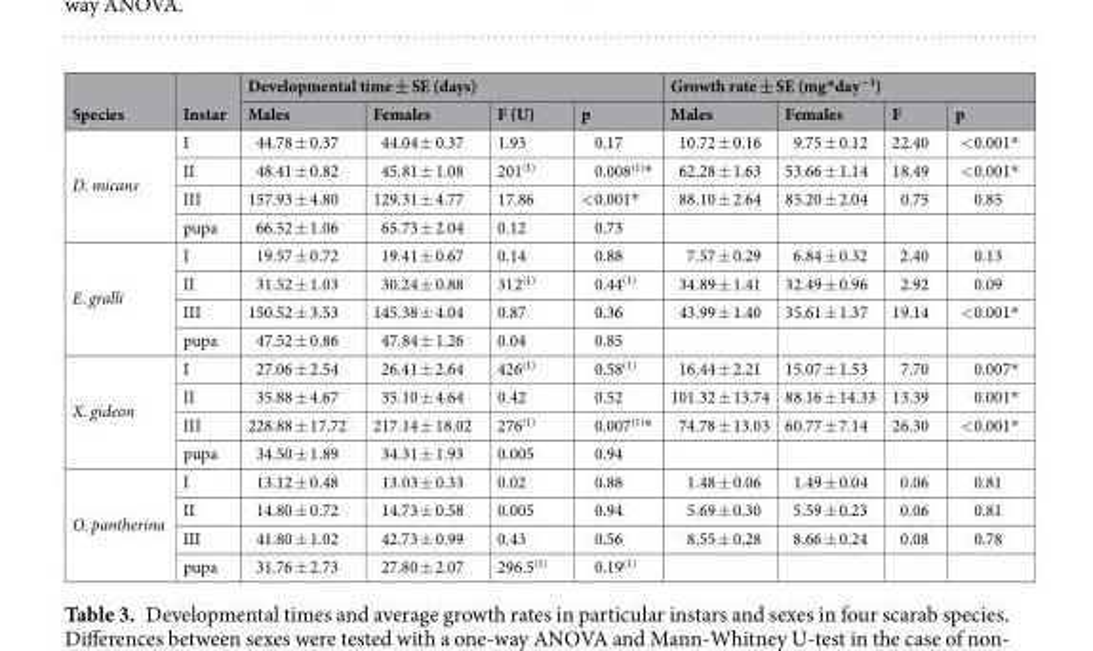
<table><thead><tr><td rowspan="2">Species</td><td rowspan="2">Instar</td><td colspan="4">Developmental time ± SE (days)</td><td colspan="4">Growth rate ± SE (mg*day<sup>−1</sup>)</td></tr><tr><td>Males</td><td>Females</td><td>F (U)</td><td>p</td><td>Males</td><td>Females</td><td>F</td><td>p</td></tr></thead><tbody><tr><td rowspan="4">D. micans</td><td>I</td><td>44.78 ± 0.37</td><td>44.04 ± 0.37</td><td>1.93</td><td>0.17</td><td>10.72 ± 0.16</td><td>9.75 ± 0.12</td><td>22.40</td><td>&lt;0.001*</td></tr><tr><td>II</td><td>48.41 ± 0.82</td><td>45.81 ± 1.08</td><td>201<sup>(1)</sup></td><td>0.008<sup>(1)</sup>*</td><td>62.28 ± 1.63</td><td>53.66 ± 1.14</td><td>18.49</td><td>&lt;0.001*</td></tr><tr><td>III</td><td>157.93 ± 4.80</td><td>129.31 ± 4.77</td><td>17.86</td><td>&lt;0.001*</td><td>88.10 ± 2.64</td><td>85.20 ± 2.04</td><td>0.75</td><td>0.85</td></tr><tr><td>pupa</td><td>66.52 ± 1.06</td><td>65.73 ± 2.04</td><td>0.12</td><td>0.73</td><td></td><td></td><td></td><td></td></tr><tr><td rowspan="4">E. gralli</td><td>I</td><td>19.57 ± 0.72</td><td>19.41 ± 0.67</td><td>0.14</td><td>0.88</td><td>7.57 ± 0.29</td><td>6.84 ± 0.32</td><td>2.40</td><td>0.13</td></tr><tr><td>II</td><td>31.52 ± 1.03</td><td>30.24 ± 0.88</td><td>312<sup>(1)</sup></td><td>0.44<sup>(1)</sup></td><td>34.89 ± 1.41</td><td>32.49 ± 0.96</td><td>2.92</td><td>0.09</td></tr><tr><td>III</td><td>150.52 ± 3.53</td><td>145.38 ± 4.04</td><td>0.87</td><td>0.36</td><td>43.99 ± 1.40</td><td>35.61 ± 1.37</td><td>19.14</td><td>&lt;0.001*</td></tr><tr><td>pupa</td><td>47.52 ± 0.86</td><td>47.84 ± 1.26</td><td>0.04</td><td>0.85</td><td></td><td></td><td></td><td></td></tr><tr><td rowspan="4">X. gideon</td><td>I</td><td>27.06 ± 2.54</td><td>26.41 ± 2.64</td><td>426<sup>(1)</sup></td><td>0.58<sup>(1)</sup></td><td>16.44 ± 2.21</td><td>15.07 ± 1.53</td><td>7.70</td><td>0.007*</td></tr><tr><td>II</td><td>35.88 ± 4.67</td><td>35.10 ± 4.64</td><td>0.42</td><td>0.52</td><td>101.32 ± 13.74</td><td>88.16 ± 14.33</td><td>13.39</td><td>0.001*</td></tr><tr><td>III</td><td>228.88 ± 17.72</td><td>217.14 ± 18.02</td><td>276<sup>(1)</sup></td><td>0.007<sup>(1)</sup>*</td><td>74.78 ± 13.03</td><td>60.77 ± 7.14</td><td>26.30</td><td>&lt;0.001*</td></tr><tr><td>pupa</td><td>34.50 ± 1.89</td><td>34.31 ± 1.93</td><td>0.005</td><td>0.94</td><td></td><td></td><td></td><td></td></tr><tr><td rowspan="4">O. pantherina</td><td>I</td><td>13.12 ± 0.48</td><td>13.03 ± 0.33</td><td>0.02</td><td>0.88</td><td>1.48 ± 0.06</td><td>1.49 ± 0.04</td><td>0.06</td><td>0.81</td></tr><tr><td>II</td><td>14.80 ± 0.72</td><td>14.73 ± 0.58</td><td>0.005</td><td>0.94</td><td>5.69 ± 0.30</td><td>5.59 ± 0.23</td><td>0.06</td><td>0.81</td></tr><tr><td>III</td><td>41.80 ± 1.02</td><td>42.73 ± 0.99</td><td>0.43</td><td>0.56</td><td>8.55 ± 0.28</td><td>8.66 ± 0.24</td><td>0.08</td><td>0.78</td></tr><tr><td>pupa</td><td>31.76 ± 2.73</td><td>27.80 ± 2.07</td><td>296.5<sup>(1)</sup></td><td>0.19<sup>(1)</sup></td><td></td><td></td><td></td><td></td></tr></tbody></table>